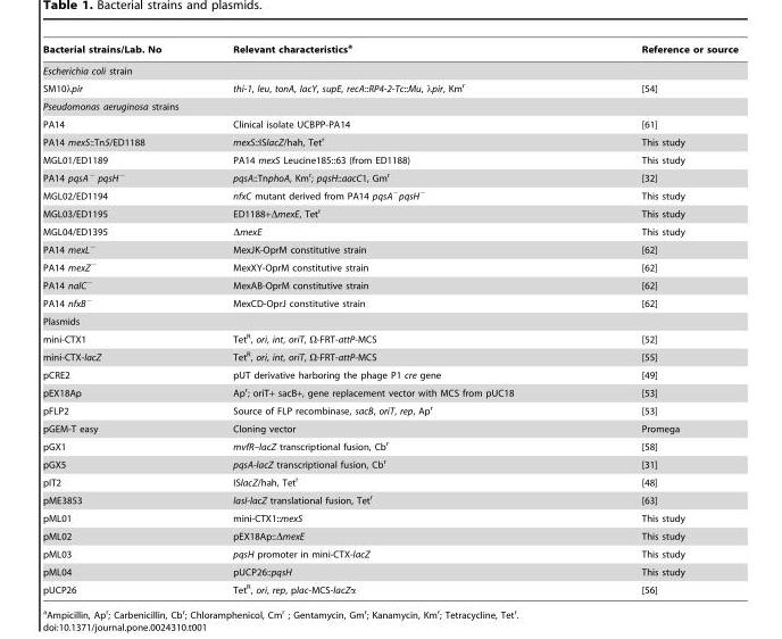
<table><thead><tr><td>Bacterial strains/Lab. No</td><td>Relevant characteristics<sup>a</sup></td><td>Reference or source</td></tr></thead><tbody><tr><td colspan="3">Escherichia coli strain</td></tr><tr><td>SM10λpir</td><td>thi-1, leu, tonA, lacY, supE, recA::RP4-2-Tc::Mu, λpir, Km<sup>r</sup></td><td>[54]</td></tr><tr><td colspan="3">Pseudomonas aeruginosa strains</td></tr><tr><td>PA14</td><td>Clinical isolate UCBPP-PA14</td><td>[61]</td></tr><tr><td>PA14 mexS::Tn5/ED1188</td><td>mexS::ISlacZ/hah, Tet<sup>r</sup></td><td>This study</td></tr><tr><td>MGL01/ED1189</td><td>PA14 mexS Leucine185::63 (from ED1188)</td><td>This study</td></tr><tr><td>PA14 pqsA<sup>−</sup> pqsH<sup>−</sup></td><td>pqsA::TnphoA, Km<sup>r</sup>; pqsH::aacC1, Gm<sup>r</sup></td><td>[32]</td></tr><tr><td>MGL02/ED1194</td><td>nfxC mutant derived from PA14 pqsA<sup>−</sup>pqsH<sup>−</sup></td><td>This study</td></tr><tr><td>MGL03/ED1195</td><td>ED1188+ΔmexE, Tet<sup>r</sup></td><td>This study</td></tr><tr><td>MGL04/ED1395</td><td>ΔmexE</td><td>This study</td></tr><tr><td>PA14 mexL<sup>−</sup></td><td>MexJK-OprM constitutive strain</td><td>[62]</td></tr><tr><td>PA14 mexZ<sup>−</sup></td><td>MexXY-OprM constitutive strain</td><td>[62]</td></tr><tr><td>PA14 nalC<sup>−</sup></td><td>MexAB-OprM constitutive strain</td><td>[62]</td></tr><tr><td>PA14 nfxB<sup>−</sup></td><td>MexCD-OprJ constitutive strain</td><td>[62]</td></tr><tr><td colspan="3">Plasmids</td></tr><tr><td>mini-CTX1</td><td>Tet<sup>R</sup>, ori, int, oriT, Ω-FRT-attP-MCS</td><td>[52]</td></tr><tr><td>mini-CTX-lacZ</td><td>Tet<sup>R</sup>, ori, int, oriT, Ω-FRT-attP-MCS</td><td>[55]</td></tr><tr><td>pCRE2</td><td>pUT derivative harboring the phage P1 cre gene</td><td>[49]</td></tr><tr><td>pEX18Ap</td><td>Ap<sup>r</sup>; oriT+ sacB+, gene replacement vector with MCS from pUC18</td><td>[53]</td></tr><tr><td>pFLP2</td><td>Source of FLP recombinase, sacB, oriT, rep, Ap<sup>r</sup></td><td>[53]</td></tr><tr><td>pGEM-T easy</td><td>Cloning vector</td><td>Promega</td></tr><tr><td>pGX1</td><td>mvfR–lacZ transcriptional fusion, Cb<sup>r</sup></td><td>[58]</td></tr><tr><td>pGX5</td><td>pqsA-lacZ transcriptional fusion, Cb<sup>r</sup></td><td>[31]</td></tr><tr><td>pIT2</td><td>ISlacZ/hah, Tet<sup>r</sup></td><td>[48]</td></tr><tr><td>pME3853</td><td>lasI-lacZ translational fusion, Tet<sup>r</sup></td><td>[63]</td></tr><tr><td>pML01</td><td>mini-CTX1::mexS</td><td>This study</td></tr><tr><td>pML02</td><td>pEX18Ap::ΔmexE</td><td>This study</td></tr><tr><td>pML03</td><td>pqsH promoter in mini-CTX-lacZ</td><td>This study</td></tr><tr><td>pML04</td><td>pUCP26::pqsH</td><td>This study</td></tr><tr><td>pUCP26</td><td>Tet<sup>R</sup>, ori, rep, plac-MCS-lacZα</td><td>[56]</td></tr></tbody></table>